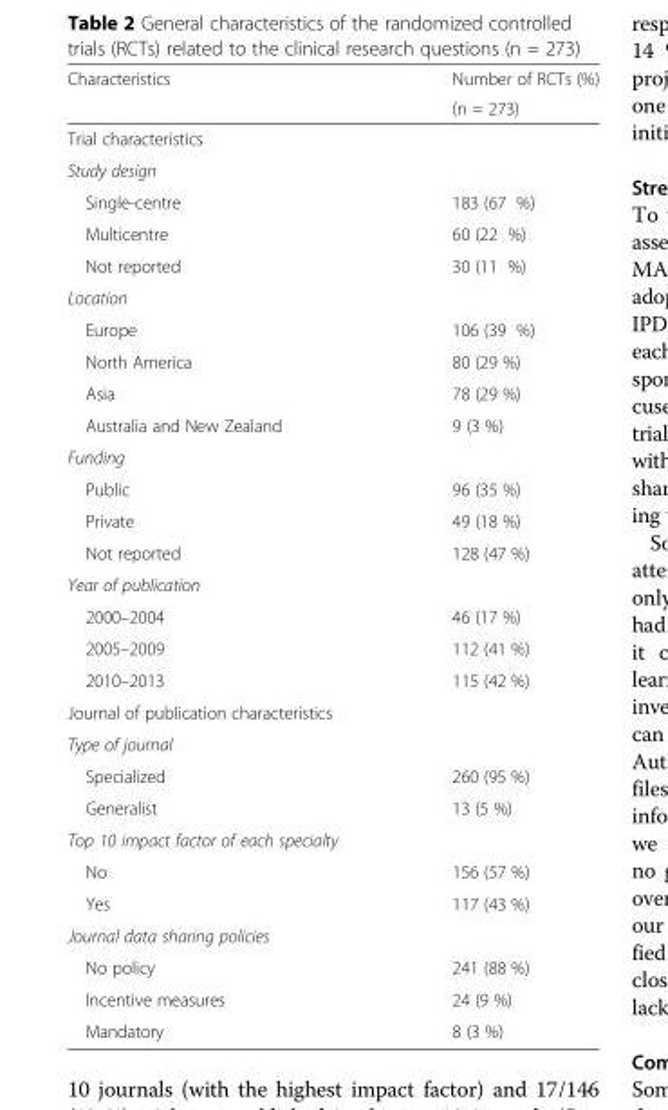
<table><thead><tr><td rowspan="2">Characteristics</td><td rowspan="2">Number of RCTs (%) (n = 273)</td></tr><tr></tr></thead><tbody><tr><td colspan="2">Trial characteristics</td></tr><tr><td colspan="2">Study design</td></tr><tr><td>Single-centre</td><td>183 (67 %)</td></tr><tr><td>Multicentre</td><td>60 (22 %)</td></tr><tr><td>Not reported</td><td>30 (11 %)</td></tr><tr><td colspan="2">Location</td></tr><tr><td>Europe</td><td>106 (39 %)</td></tr><tr><td>North America</td><td>80 (29 %)</td></tr><tr><td>Asia</td><td>78 (29 %)</td></tr><tr><td>Australia and New Zealand</td><td>9 (3 %)</td></tr><tr><td colspan="2">Funding</td></tr><tr><td>Public</td><td>96 (35 %)</td></tr><tr><td>Private</td><td>49 (18 %)</td></tr><tr><td>Not reported</td><td>128 (47 %)</td></tr><tr><td colspan="2">Year of publication</td></tr><tr><td>2000–2004</td><td>46 (17 %)</td></tr><tr><td>2005–2009</td><td>112 (41 %)</td></tr><tr><td>2010–2013</td><td>115 (42 %)</td></tr><tr><td colspan="2">Journal of publication characteristics</td></tr><tr><td colspan="2">Type of journal</td></tr><tr><td>Specialized</td><td>260 (95 %)</td></tr><tr><td>Generalist</td><td>13 (5 %)</td></tr><tr><td colspan="2">Top 10 impact factor of each specialty</td></tr><tr><td>No</td><td>156 (57 %)</td></tr><tr><td>Yes</td><td>117 (43 %)</td></tr><tr><td colspan="2">Journal data sharing policies</td></tr><tr><td>No policy</td><td>241 (88 %)</td></tr><tr><td>Incentive measures</td><td>24 (9 %)</td></tr><tr><td>Mandatory</td><td>8 (3 %)</td></tr></tbody></table>